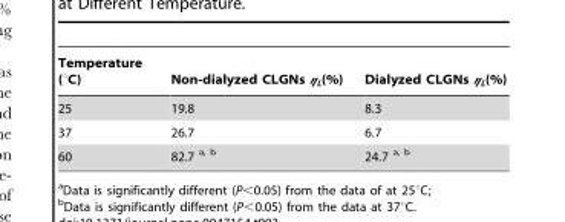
<table><thead><tr><td>Temperature (°C)</td><td>Non-dialyzed CLGNs η<sub>L</sub>(%)</td><td>Dialyzed CLGNs η<sub>L</sub>(%)</td></tr></thead><tbody><tr><td>25</td><td>19.8</td><td>8.3</td></tr><tr><td>37</td><td>26.7</td><td>6.7</td></tr><tr><td>60</td><td>82.7 a, b</td><td>24.7 a, b</td></tr></tbody></table>